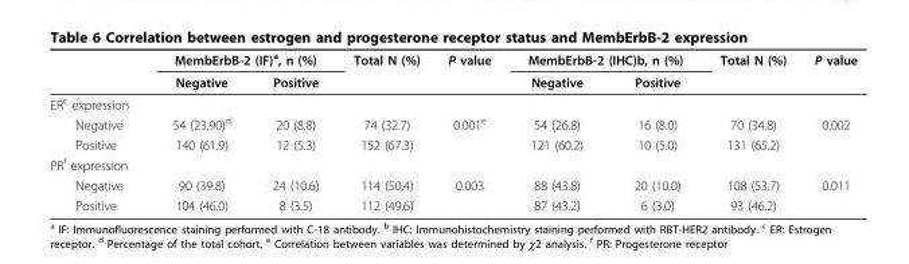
<table><thead><tr><td rowspan="2"></td><td colspan="2">MembErbB-2 (IF)<sup>a</sup>, n (%)</td><td rowspan="2">Total N (%)</td><td rowspan="2">P value</td><td colspan="2">MembErbB-2 (IHC)b, n (%)</td><td rowspan="2">Total N (%)</td><td rowspan="2">P value</td></tr><tr><td>Negative</td><td>Positive</td><td>Negative</td><td>Positive</td></tr></thead><tbody><tr><td colspan="9">ER<sup>c</sup> expression</td></tr><tr><td>Negative</td><td>54 (23.90)<sup>d</sup></td><td>20 (8.8)</td><td>74 (32.7)</td><td>0.001<sup>e</sup></td><td>54 (26.8)</td><td>16 (8.0)</td><td>70 (34.8)</td><td>0.002</td></tr><tr><td>Positive</td><td>140 (61.9)</td><td>12 (5.3)</td><td>152 (67.3)</td><td></td><td>121 (60.2)</td><td>10 (5.0)</td><td>131 (65.2)</td><td></td></tr><tr><td colspan="9">PR<sup>f</sup> expression</td></tr><tr><td>Negative</td><td>90 (39.8)</td><td>24 (10.6)</td><td>114 (50.4)</td><td>0.003</td><td>88 (43.8)</td><td>20 (10.0)</td><td>108 (53.7)</td><td>0.011</td></tr><tr><td>Positive</td><td>104 (46.0)</td><td>8 (3.5)</td><td>112 (49.6)</td><td></td><td>87 (43.2)</td><td>6 (3.0)</td><td>93 (46.2)</td><td></td></tr></tbody></table>